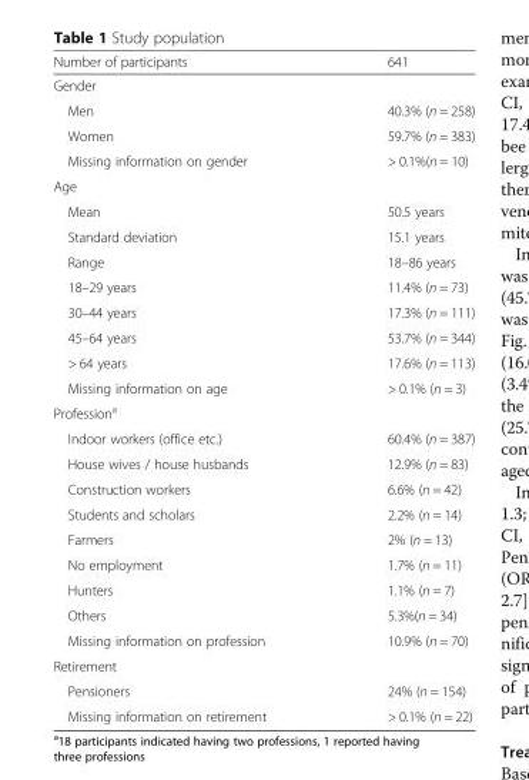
<table><thead><tr><td>Number of participants</td><td>641</td></tr></thead><tbody><tr><td colspan="2">Gender</td></tr><tr><td>Men</td><td>40.3% (n = 258)</td></tr><tr><td>Women</td><td>59.7% (n = 383)</td></tr><tr><td>Missing information on gender</td><td>&gt; 0.1%(n = 10)</td></tr><tr><td colspan="2">Age</td></tr><tr><td>Mean</td><td>50.5 years</td></tr><tr><td>Standard deviation</td><td>15.1 years</td></tr><tr><td>Range</td><td>18–86 years</td></tr><tr><td>18–29 years</td><td>11.4% (n = 73)</td></tr><tr><td>30–44 years</td><td>17.3% (n = 111)</td></tr><tr><td>45–64 years</td><td>53.7% (n = 344)</td></tr><tr><td>&gt; 64 years</td><td>17.6% (n = 113)</td></tr><tr><td>Missing information on age</td><td>&gt; 0.1% (n = 3)</td></tr><tr><td colspan="2">Profession<sup>a</sup></td></tr><tr><td>Indoor workers (office etc.)</td><td>60.4% (n = 387)</td></tr><tr><td>House wives / house husbands</td><td>12.9% (n = 83)</td></tr><tr><td>Construction workers</td><td>6.6% (n = 42)</td></tr><tr><td>Students and scholars</td><td>2.2% (n = 14)</td></tr><tr><td>Farmers</td><td>2% (n = 13)</td></tr><tr><td>No employment</td><td>1.7% (n = 11)</td></tr><tr><td>Hunters</td><td>1.1% (n = 7)</td></tr><tr><td>Others</td><td>5.3%(n = 34)</td></tr><tr><td>Missing information on profession</td><td>10.9% (n = 70)</td></tr><tr><td colspan="2">Retirement</td></tr><tr><td>Pensioners</td><td>24% (n = 154)</td></tr><tr><td>Missing information on retirement</td><td>&gt; 0.1% (n = 22)</td></tr></tbody></table>